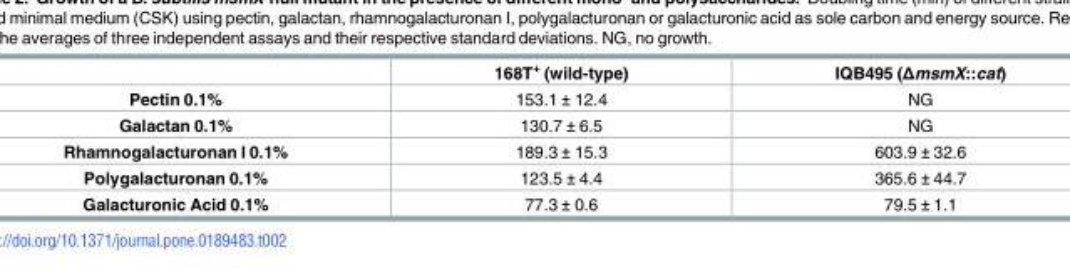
<table><thead><tr><td></td><td>168T<sup>+</sup> (wild-type)</td><td>IQB495 (ΔmsmX::cat)</td></tr></thead><tbody><tr><td>Pectin 0.1%</td><td>153.1 ± 12.4</td><td>NG</td></tr><tr><td>Galactan 0.1%</td><td>130.7 ± 6.5</td><td>NG</td></tr><tr><td>Rhamnogalacturonan I 0.1%</td><td>189.3 ± 15.3</td><td>603.9 ± 32.6</td></tr><tr><td>Polygalacturonan 0.1%</td><td>123.5 ± 4.4</td><td>365.6 ± 44.7</td></tr><tr><td>Galacturonic Acid 0.1%</td><td>77.3 ± 0.6</td><td>79.5 ± 1.1</td></tr></tbody></table>